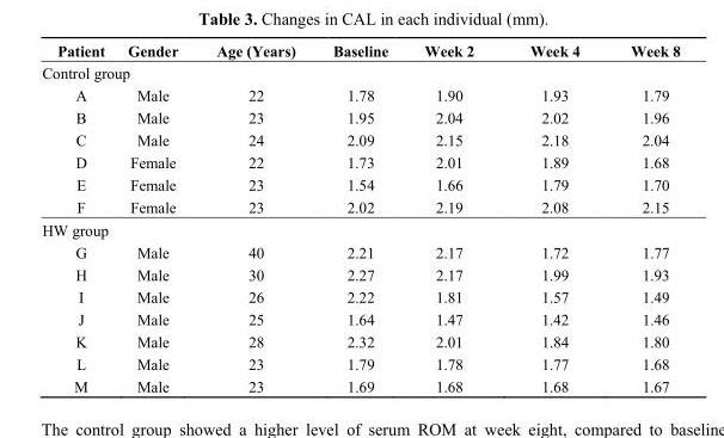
<table><thead><tr><td>Patient</td><td>Gender</td><td>Age (Years)</td><td>Baseline</td><td>Week 2</td><td>Week 4</td><td>Week 8</td></tr></thead><tbody><tr><td colspan="7">Control group</td></tr><tr><td>A</td><td>Male</td><td>22</td><td>1.78</td><td>1.90</td><td>1.93</td><td>1.79</td></tr><tr><td>B</td><td>Male</td><td>23</td><td>1.95</td><td>2.04</td><td>2.02</td><td>1.96</td></tr><tr><td>C</td><td>Male</td><td>24</td><td>2.09</td><td>2.15</td><td>2.18</td><td>2.04</td></tr><tr><td>D</td><td>Female</td><td>22</td><td>1.73</td><td>2.01</td><td>1.89</td><td>1.68</td></tr><tr><td>E</td><td>Female</td><td>23</td><td>1.54</td><td>1.66</td><td>1.79</td><td>1.70</td></tr><tr><td>F</td><td>Female</td><td>23</td><td>2.02</td><td>2.19</td><td>2.08</td><td>2.15</td></tr><tr><td colspan="7">HW group</td></tr><tr><td>G</td><td>Male</td><td>40</td><td>2.21</td><td>2.17</td><td>1.72</td><td>1.77</td></tr><tr><td>H</td><td>Male</td><td>30</td><td>2.27</td><td>2.17</td><td>1.99</td><td>1.93</td></tr><tr><td>I</td><td>Male</td><td>26</td><td>2.22</td><td>1.81</td><td>1.57</td><td>1.49</td></tr><tr><td>J</td><td>Male</td><td>25</td><td>1.64</td><td>1.47</td><td>1.42</td><td>1.46</td></tr><tr><td>K</td><td>Male</td><td>28</td><td>2.32</td><td>2.01</td><td>1.84</td><td>1.80</td></tr><tr><td>L</td><td>Male</td><td>23</td><td>1.79</td><td>1.78</td><td>1.77</td><td>1.68</td></tr><tr><td>M</td><td>Male</td><td>23</td><td>1.69</td><td>1.68</td><td>1.68</td><td>1.67</td></tr></tbody></table>